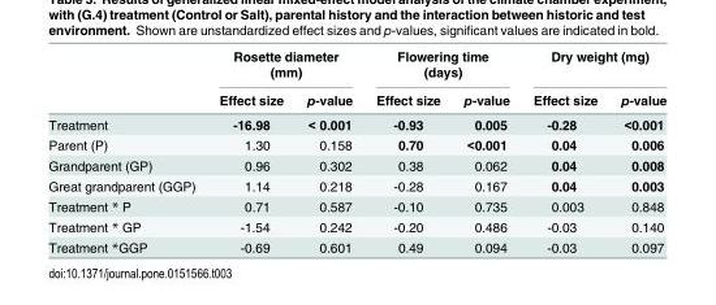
<table><thead><tr><td rowspan="2"></td><td colspan="2">Rosette diameter (mm)</td><td colspan="2">Flowering time (days)</td><td colspan="2">Dry weight (mg)</td></tr><tr><td>Effect size</td><td>p-value</td><td>Effect size</td><td>p-value</td><td>Effect size</td><td>p-value</td></tr></thead><tbody><tr><td>Treatment</td><td>-16.98</td><td>&lt; 0.001</td><td>-0.93</td><td>0.005</td><td>-0.28</td><td>&lt;0.001</td></tr><tr><td>Parent (P)</td><td>1.30</td><td>0.158</td><td>0.70</td><td>&lt;0.001</td><td>0.04</td><td>0.006</td></tr><tr><td>Grandparent (GP)</td><td>0.96</td><td>0.302</td><td>0.38</td><td>0.062</td><td>0.04</td><td>0.008</td></tr><tr><td>Great grandparent (GGP)</td><td>1.14</td><td>0.218</td><td>-0.28</td><td>0.167</td><td>0.04</td><td>0.003</td></tr><tr><td>Treatment * P</td><td>0.71</td><td>0.587</td><td>-0.10</td><td>0.735</td><td>0.003</td><td>0.848</td></tr><tr><td>Treatment * GP</td><td>-1.54</td><td>0.242</td><td>-0.20</td><td>0.486</td><td>-0.03</td><td>0.140</td></tr><tr><td>Treatment *GGP</td><td>-0.69</td><td>0.601</td><td>0.49</td><td>0.094</td><td>-0.03</td><td>0.097</td></tr></tbody></table>